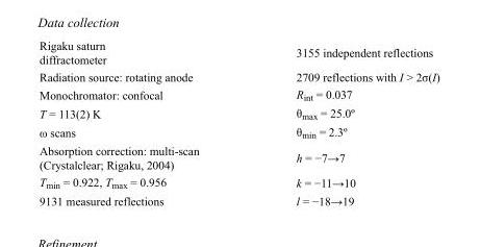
<table><tbody><tr><td>Rigaku saturn diffractometer</td><td>3155 independent reflections</td></tr><tr><td>Radiation source: rotating anode</td><td>2709 reflections with I &gt; 2σ(I)</td></tr><tr><td>Monochromator: confocal</td><td>R<sub>int</sub> = 0.037</td></tr><tr><td>T = 113(2) K</td><td>θ<sub>max</sub> = 25.0º</td></tr><tr><td>ω scans</td><td>θ<sub>min</sub> = 2.3º</td></tr><tr><td>Absorption correction: multi-scan (Crystalclear; Rigaku, 2004)</td><td>h = −7→7</td></tr><tr><td>T<sub>min</sub> = 0.922, T<sub>max</sub> = 0.956</td><td>k = −11→10</td></tr><tr><td>9131 measured reflections</td><td>l = −18→19</td></tr></tbody></table>